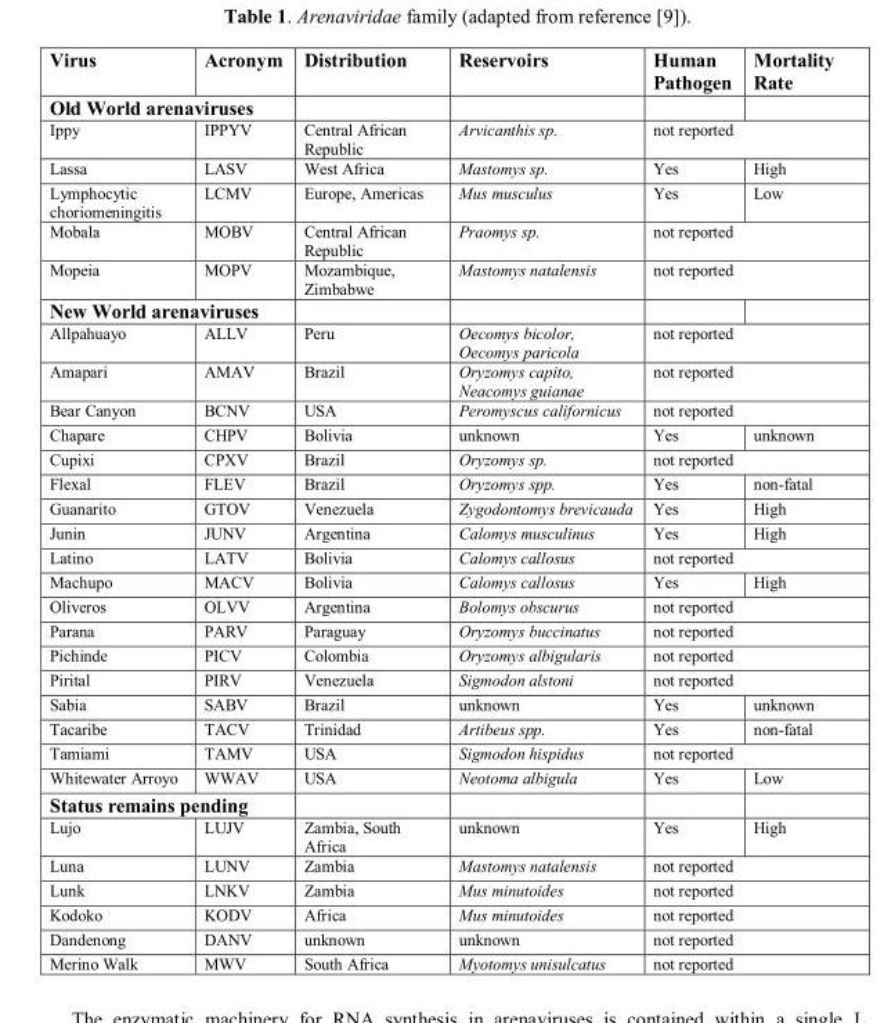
<table><thead><tr><td>Virus</td><td>Acronym</td><td>Distribution</td><td>Reservoirs</td><td>Human Pathogen</td><td>Mortality Rate</td></tr></thead><tbody><tr><td colspan="6">Old World arenaviruses</td></tr><tr><td>Ippy</td><td>IPPYV</td><td>Central African Republic</td><td>Arvicanthis sp.</td><td colspan="2">not reported</td></tr><tr><td>Lassa</td><td>LASV</td><td>West Africa</td><td>Mastomys sp.</td><td>Yes</td><td>High</td></tr><tr><td>Lymphocytic choriomeningitis</td><td>LCMV</td><td>Europe, Americas</td><td>Mus musculus</td><td>Yes</td><td>Low</td></tr><tr><td>Mobala</td><td>MOBV</td><td>Central African Republic</td><td>Praomys sp.</td><td colspan="2">not reported</td></tr><tr><td>Mopeia</td><td>MOPV</td><td>Mozambique, Zimbabwe</td><td>Mastomys natalensis</td><td colspan="2">not reported</td></tr><tr><td colspan="6">New World arenaviruses</td></tr><tr><td>Allpahuayo</td><td>ALLV</td><td>Peru</td><td>Oecomys bicolor, Oecomys paricola</td><td colspan="2">not reported</td></tr><tr><td>Amapari</td><td>AMAV</td><td>Brazil</td><td>Oryzomys capito, Neacomys guianae</td><td colspan="2">not reported</td></tr><tr><td>Bear Canyon</td><td>BCNV</td><td>USA</td><td>Peromyscus californicus</td><td colspan="2">not reported</td></tr><tr><td>Chapare</td><td>CHPV</td><td>Bolivia</td><td>unknown</td><td>Yes</td><td>unknown</td></tr><tr><td>Cupixi</td><td>CPXV</td><td>Brazil</td><td>Oryzomys sp.</td><td colspan="2">not reported</td></tr><tr><td>Flexal</td><td>FLEV</td><td>Brazil</td><td>Oryzomys spp.</td><td>Yes</td><td>non-fatal</td></tr><tr><td>Guanarito</td><td>GTOV</td><td>Venezuela</td><td>Zygodontomys brevicauda</td><td>Yes</td><td>High</td></tr><tr><td>Junin</td><td>JUNV</td><td>Argentina</td><td>Calomys musculinus</td><td>Yes</td><td>High</td></tr><tr><td>Latino</td><td>LATV</td><td>Bolivia</td><td>Calomys callosus</td><td colspan="2">not reported</td></tr><tr><td>Machupo</td><td>MACV</td><td>Bolivia</td><td>Calomys callosus</td><td>Yes</td><td>High</td></tr><tr><td>Oliveros</td><td>OLVV</td><td>Argentina</td><td>Bolomys obscurus</td><td colspan="2">not reported</td></tr><tr><td>Parana</td><td>PARV</td><td>Paraguay</td><td>Oryzomys buccinatus</td><td colspan="2">not reported</td></tr><tr><td>Pichinde</td><td>PICV</td><td>Colombia</td><td>Oryzomys albigularis</td><td colspan="2">not reported</td></tr><tr><td>Pirital</td><td>PIRV</td><td>Venezuela</td><td>Sigmodon alstoni</td><td colspan="2">not reported</td></tr><tr><td>Sabia</td><td>SABV</td><td>Brazil</td><td>unknown</td><td>Yes</td><td>unknown</td></tr><tr><td>Tacaribe</td><td>TACV</td><td>Trinidad</td><td>Artibeus spp.</td><td>Yes</td><td>non-fatal</td></tr><tr><td>Tamiami</td><td>TAMV</td><td>USA</td><td>Sigmodon hispidus</td><td colspan="2">not reported</td></tr><tr><td>Whitewater Arroyo</td><td>WWAV</td><td>USA</td><td>Neotoma albigula</td><td>Yes</td><td>Low</td></tr><tr><td colspan="6">Status remains pending</td></tr><tr><td>Lujo</td><td>LUJV</td><td>Zambia, South Africa</td><td>unknown</td><td>Yes</td><td>High</td></tr><tr><td>Luna</td><td>LUNV</td><td>Zambia</td><td>Mastomys natalensis</td><td colspan="2">not reported</td></tr><tr><td>Lunk</td><td>LNKV</td><td>Zambia</td><td>Mus minutoides</td><td colspan="2">not reported</td></tr><tr><td>Kodoko</td><td>KODV</td><td>Africa</td><td>Mus minutoides</td><td colspan="2">not reported</td></tr><tr><td>Dandenong</td><td>DANV</td><td>unknown</td><td>unknown</td><td colspan="2">not reported</td></tr><tr><td>Merino Walk</td><td>MWV</td><td>South Africa</td><td>Myotomys unisulcatus</td><td colspan="2">not reported</td></tr></tbody></table>